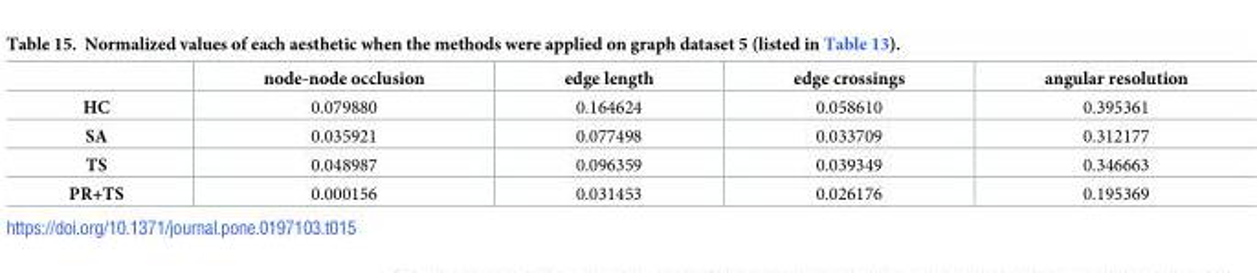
<table><thead><tr><td></td><td>node-node occlusion</td><td>edge length</td><td>edge crossings</td><td>angular resolution</td></tr></thead><tbody><tr><td>HC</td><td>0.079880</td><td>0.164624</td><td>0.058610</td><td>0.395361</td></tr><tr><td>SA</td><td>0.035921</td><td>0.077498</td><td>0.033709</td><td>0.312177</td></tr><tr><td>TS</td><td>0.048987</td><td>0.096359</td><td>0.039349</td><td>0.346663</td></tr><tr><td>PR+TS</td><td>0.000156</td><td>0.031453</td><td>0.026176</td><td>0.195369</td></tr></tbody></table>